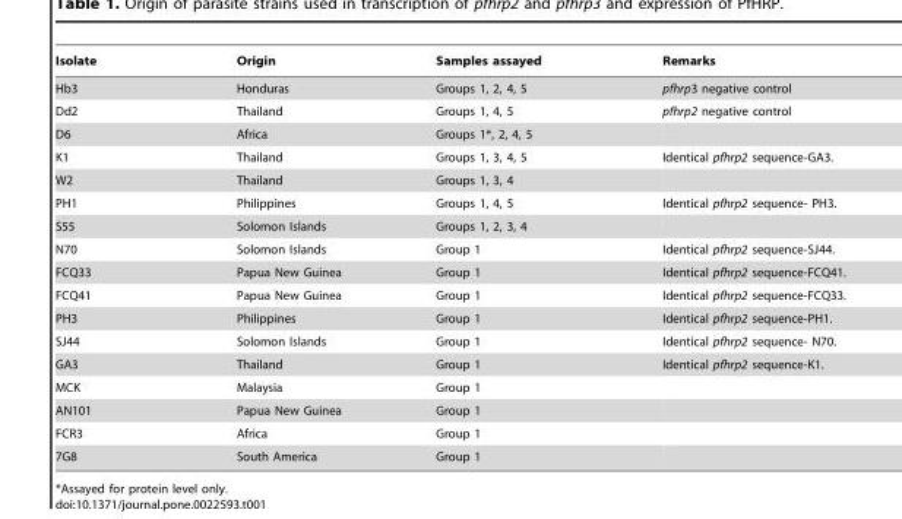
<table><thead><tr><td>Isolate</td><td>Origin</td><td>Samples assayed</td><td>Remarks</td></tr></thead><tbody><tr><td>Hb3</td><td>Honduras</td><td>Groups 1, 2, 4, 5</td><td>pfhrp3 negative control</td></tr><tr><td>Dd2</td><td>Thailand</td><td>Groups 1, 4, 5</td><td>pfhrp2 negative control</td></tr><tr><td>D6</td><td>Africa</td><td>Groups 1*, 2, 4, 5</td><td></td></tr><tr><td>K1</td><td>Thailand</td><td>Groups 1, 3, 4, 5</td><td>Identical pfhrp2 sequence-GA3.</td></tr><tr><td>W2</td><td>Thailand</td><td>Groups 1, 3, 4</td><td></td></tr><tr><td>PH1</td><td>Philippines</td><td>Groups 1, 4, 5</td><td>Identical pfhrp2 sequence- PH3.</td></tr><tr><td>S55</td><td>Solomon Islands</td><td>Groups 1, 2, 3, 4</td><td></td></tr><tr><td>N70</td><td>Solomon Islands</td><td>Group 1</td><td>Identical pfhrp2 sequence-SJ44.</td></tr><tr><td>FCQ33</td><td>Papua New Guinea</td><td>Group 1</td><td>Identical pfhrp2 sequence-FCQ41.</td></tr><tr><td>FCQ41</td><td>Papua New Guinea</td><td>Group 1</td><td>Identical pfhrp2 sequence-FCQ33.</td></tr><tr><td>PH3</td><td>Philippines</td><td>Group 1</td><td>Identical pfhrp2 sequence-PH1.</td></tr><tr><td>SJ44</td><td>Solomon Islands</td><td>Group 1</td><td>Identical pfhrp2 sequence- N70.</td></tr><tr><td>GA3</td><td>Thailand</td><td>Group 1</td><td>Identical pfhrp2 sequence-K1.</td></tr><tr><td>MCK</td><td>Malaysia</td><td>Group 1</td><td></td></tr><tr><td>AN101</td><td>Papua New Guinea</td><td>Group 1</td><td></td></tr><tr><td>FCR3</td><td>Africa</td><td>Group 1</td><td></td></tr><tr><td>7G8</td><td>South America</td><td>Group 1</td><td></td></tr></tbody></table>